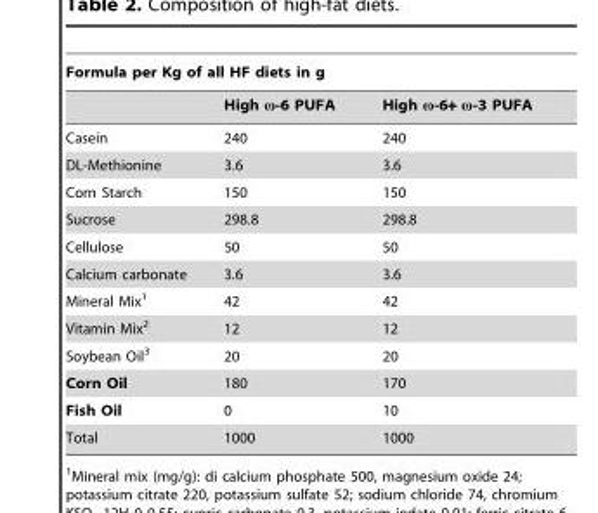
<table><thead><tr><td colspan="3">Formula per Kg of all HF diets in g</td></tr><tr><td></td><td>High ω-6 PUFA</td><td>High ω-6+ ω-3 PUFA</td></tr></thead><tbody><tr><td>Casein</td><td>240</td><td>240</td></tr><tr><td>DL-Methionine</td><td>3.6</td><td>3.6</td></tr><tr><td>Corn Starch</td><td>150</td><td>150</td></tr><tr><td>Sucrose</td><td>298.8</td><td>298.8</td></tr><tr><td>Cellulose</td><td>50</td><td>50</td></tr><tr><td>Calcium carbonate</td><td>3.6</td><td>3.6</td></tr><tr><td>Mineral Mix<sup>1</sup></td><td>42</td><td>42</td></tr><tr><td>Vitamin Mix<sup>2</sup></td><td>12</td><td>12</td></tr><tr><td>Soybean Oil<sup>3</sup></td><td>20</td><td>20</td></tr><tr><td>Corn Oil</td><td>180</td><td>170</td></tr><tr><td>Fish Oil</td><td>0</td><td>10</td></tr><tr><td>Total</td><td>1000</td><td>1000</td></tr></tbody></table>